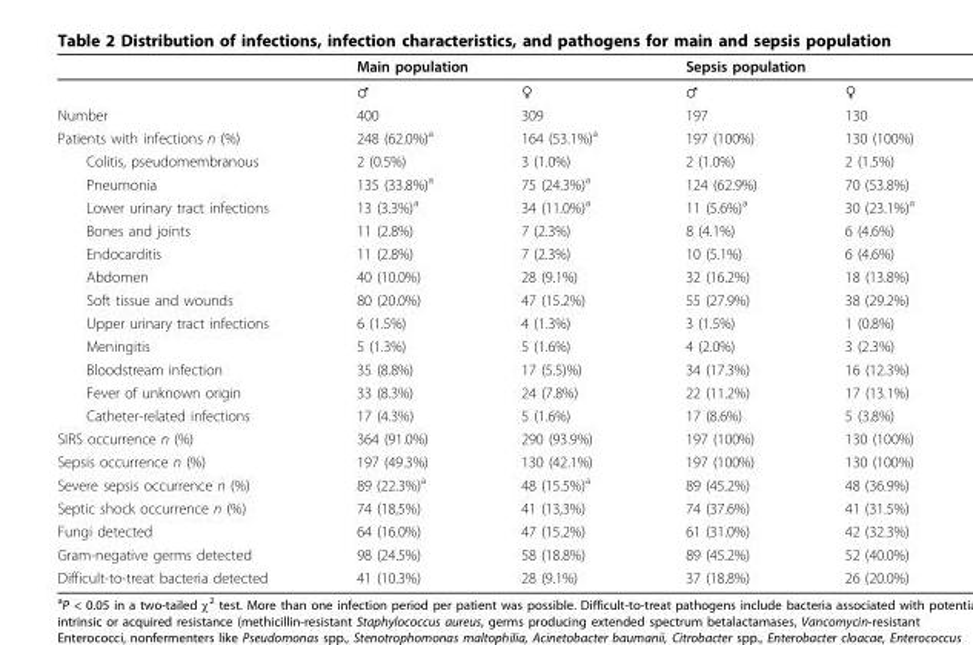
<table><thead><tr><td rowspan="2"></td><td colspan="2">Main population</td><td colspan="2">Sepsis population</td></tr><tr><td>♂</td><td>♀</td><td>♂</td><td>♀</td></tr></thead><tbody><tr><td>Number</td><td>400</td><td>309</td><td>197</td><td>130</td></tr><tr><td>Patients with infections n (%)</td><td>248 (62.0%)<sup>a</sup></td><td>164 (53.1%)<sup>a</sup></td><td>197 (100%)</td><td>130 (100%)</td></tr><tr><td>Colitis, pseudomembranous</td><td>2 (0.5%)</td><td>3 (1.0%)</td><td>2 (1.0%)</td><td>2 (1.5%)</td></tr><tr><td>Pneumonia</td><td>135 (33.8%)<sup>a</sup></td><td>75 (24.3%)<sup>a</sup></td><td>124 (62.9%)</td><td>70 (53.8%)</td></tr><tr><td>Lower urinary tract infections</td><td>13 (3.3%)<sup>a</sup></td><td>34 (11.0%)<sup>a</sup></td><td>11 (5.6%)<sup>a</sup></td><td>30 (23.1%)<sup>a</sup></td></tr><tr><td>Bones and joints</td><td>11 (2.8%)</td><td>7 (2.3%)</td><td>8 (4.1%)</td><td>6 (4.6%)</td></tr><tr><td>Endocarditis</td><td>11 (2.8%)</td><td>7 (2.3%)</td><td>10 (5.1%)</td><td>6 (4.6%)</td></tr><tr><td>Abdomen</td><td>40 (10.0%)</td><td>28 (9.1%)</td><td>32 (16.2%)</td><td>18 (13.8%)</td></tr><tr><td>Soft tissue and wounds</td><td>80 (20.0%)</td><td>47 (15.2%)</td><td>55 (27.9%)</td><td>38 (29.2%)</td></tr><tr><td>Upper urinary tract infections</td><td>6 (1.5%)</td><td>4 (1.3%)</td><td>3 (1.5%)</td><td>1 (0.8%)</td></tr><tr><td>Meningitis</td><td>5 (1.3%)</td><td>5 (1.6%)</td><td>4 (2.0%)</td><td>3 (2.3%)</td></tr><tr><td>Bloodstream infection</td><td>35 (8.8%)</td><td>17 (5.5)%)</td><td>34 (17.3%)</td><td>16 (12.3%)</td></tr><tr><td>Fever of unknown origin</td><td>33 (8.3%)</td><td>24 (7.8%)</td><td>22 (11.2%)</td><td>17 (13.1%)</td></tr><tr><td>Catheter-related infections</td><td>17 (4.3%)</td><td>5 (1.6%)</td><td>17 (8.6%)</td><td>5 (3.8%)</td></tr><tr><td>SIRS occurrence n (%)</td><td>364 (91.0%)</td><td>290 (93.9%)</td><td>197 (100%)</td><td>130 (100%)</td></tr><tr><td>Sepsis occurrence n (%)</td><td>197 (49.3%)</td><td>130 (42.1%)</td><td>197 (100%)</td><td>130 (100%)</td></tr><tr><td>Severe sepsis occurrence n (%)</td><td>89 (22.3%)<sup>a</sup></td><td>48 (15.5%)<sup>a</sup></td><td>89 (45.2%)</td><td>48 (36.9%)</td></tr><tr><td>Septic shock occurrence n (%)</td><td>74 (18,5%)</td><td>41 (13,3%)</td><td>74 (37.6%)</td><td>41 (31.5%)</td></tr><tr><td>Fungi detected</td><td>64 (16.0%)</td><td>47 (15.2%)</td><td>61 (31.0%)</td><td>42 (32.3%)</td></tr><tr><td>Gram-negative germs detected</td><td>98 (24.5%)</td><td>58 (18.8%)</td><td>89 (45.2%)</td><td>52 (40.0%)</td></tr><tr><td>Difficult-to-treat bacteria detected</td><td>41 (10.3%)</td><td>28 (9.1%)</td><td>37 (18.8%)</td><td>26 (20.0%)</td></tr></tbody></table>